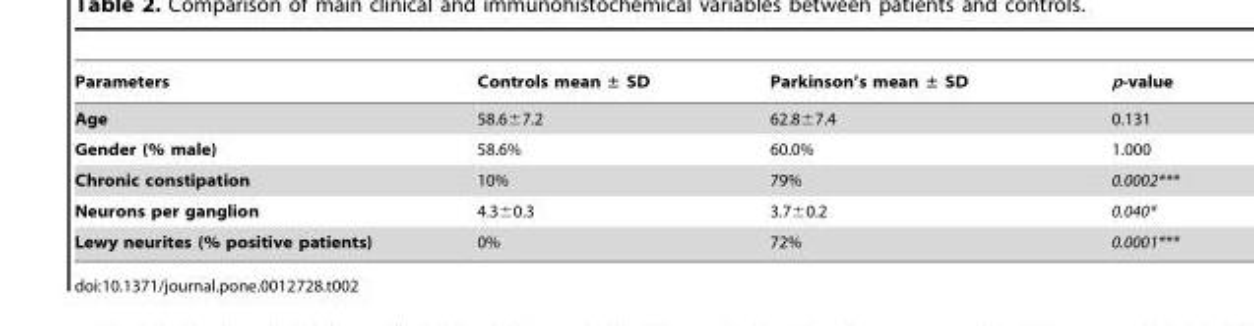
<table><thead><tr><td>Parameters</td><td>Controls mean ± SD</td><td>Parkinson’s mean ± SD</td><td>p-value</td></tr></thead><tbody><tr><td>Age</td><td>58.6±7.2</td><td>62.8±7.4</td><td>0.131</td></tr><tr><td>Gender (% male)</td><td>58.6%</td><td>60.0%</td><td>1.000</td></tr><tr><td>Chronic constipation</td><td>10%</td><td>79%</td><td>0.0002***</td></tr><tr><td>Neurons per ganglion</td><td>4.3±0.3</td><td>3.7±0.2</td><td>0.040*</td></tr><tr><td>Lewy neurites (% positive patients)</td><td>0%</td><td>72%</td><td>0.0001***</td></tr></tbody></table>